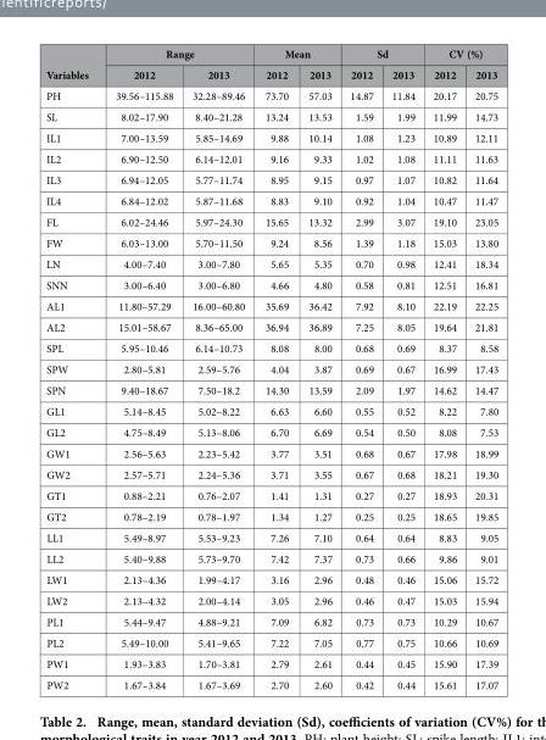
<table><thead><tr><td rowspan="2">Variables</td><td colspan="2">Range</td><td colspan="2">Mean</td><td colspan="2">Sd</td><td colspan="2">CV (%)</td></tr><tr><td>2012</td><td>2013</td><td>2012</td><td>2013</td><td>2012</td><td>2013</td><td>2012</td><td>2013</td></tr></thead><tbody><tr><td>PH</td><td>39.56–115.88</td><td>32.28–89.46</td><td>73.70</td><td>57.03</td><td>14.87</td><td>11.84</td><td>20.17</td><td>20.75</td></tr><tr><td>SL</td><td>8.02–17.90</td><td>8.40–21.28</td><td>13.24</td><td>13.53</td><td>1.59</td><td>1.99</td><td>11.99</td><td>14.73</td></tr><tr><td>IL1</td><td>7.00–13.59</td><td>5.85–14.69</td><td>9.88</td><td>10.14</td><td>1.08</td><td>1.23</td><td>10.89</td><td>12.11</td></tr><tr><td>IL2</td><td>6.90–12.50</td><td>6.14–12.01</td><td>9.16</td><td>9.33</td><td>1.02</td><td>1.08</td><td>11.11</td><td>11.63</td></tr><tr><td>IL3</td><td>6.94–12.05</td><td>5.77–11.74</td><td>8.95</td><td>9.15</td><td>0.97</td><td>1.07</td><td>10.82</td><td>11.64</td></tr><tr><td>IL4</td><td>6.84–12.02</td><td>5.87–11.68</td><td>8.83</td><td>9.10</td><td>0.92</td><td>1.04</td><td>10.47</td><td>11.47</td></tr><tr><td>FL</td><td>6.02–24.46</td><td>5.97–24.30</td><td>15.65</td><td>13.32</td><td>2.99</td><td>3.07</td><td>19.10</td><td>23.05</td></tr><tr><td>FW</td><td>6.03–13.00</td><td>5.70–11.50</td><td>9.24</td><td>8.56</td><td>1.39</td><td>1.18</td><td>15.03</td><td>13.80</td></tr><tr><td>LN</td><td>4.00–7.40</td><td>3.00–7.80</td><td>5.65</td><td>5.35</td><td>0.70</td><td>0.98</td><td>12.41</td><td>18.34</td></tr><tr><td>SNN</td><td>3.00–6.40</td><td>3.00–6.80</td><td>4.66</td><td>4.80</td><td>0.58</td><td>0.81</td><td>12.51</td><td>16.81</td></tr><tr><td>AL1</td><td>11.80–57.29</td><td>16.00–60.80</td><td>35.69</td><td>36.42</td><td>7.92</td><td>8.10</td><td>22.19</td><td>22.25</td></tr><tr><td>AL2</td><td>15.01–58.67</td><td>8.36–65.00</td><td>36.94</td><td>36.89</td><td>7.25</td><td>8.05</td><td>19.64</td><td>21.81</td></tr><tr><td>SPL</td><td>5.95–10.46</td><td>6.14–10.73</td><td>8.08</td><td>8.00</td><td>0.68</td><td>0.69</td><td>8.37</td><td>8.58</td></tr><tr><td>SPW</td><td>2.80–5.81</td><td>2.59–5.76</td><td>4.04</td><td>3.87</td><td>0.69</td><td>0.67</td><td>16.99</td><td>17.43</td></tr><tr><td>SPN</td><td>9.40–18.67</td><td>7.50–18.2</td><td>14.30</td><td>13.59</td><td>2.09</td><td>1.97</td><td>14.62</td><td>14.47</td></tr><tr><td>GL1</td><td>5.14–8.45</td><td>5.02–8.22</td><td>6.63</td><td>6.60</td><td>0.55</td><td>0.52</td><td>8.22</td><td>7.80</td></tr><tr><td>GL2</td><td>4.75–8.49</td><td>5.13–8.06</td><td>6.70</td><td>6.69</td><td>0.54</td><td>0.50</td><td>8.08</td><td>7.53</td></tr><tr><td>GW1</td><td>2.56–5.63</td><td>2.23–5.42</td><td>3.77</td><td>3.51</td><td>0.68</td><td>0.67</td><td>17.98</td><td>18.99</td></tr><tr><td>GW2</td><td>2.57–5.71</td><td>2.24–5.36</td><td>3.71</td><td>3.55</td><td>0.67</td><td>0.68</td><td>18.21</td><td>19.30</td></tr><tr><td>GT1</td><td>0.88–2.21</td><td>0.76–2.07</td><td>1.41</td><td>1.31</td><td>0.27</td><td>0.27</td><td>18.93</td><td>20.31</td></tr><tr><td>GT2</td><td>0.78–2.19</td><td>0.78–1.97</td><td>1.34</td><td>1.27</td><td>0.25</td><td>0.25</td><td>18.65</td><td>19.85</td></tr><tr><td>LL1</td><td>5.49–8.97</td><td>5.53–9.23</td><td>7.26</td><td>7.10</td><td>0.64</td><td>0.64</td><td>8.83</td><td>9.05</td></tr><tr><td>LL2</td><td>5.40–9.88</td><td>5.73–9.70</td><td>7.42</td><td>7.37</td><td>0.73</td><td>0.66</td><td>9.86</td><td>9.01</td></tr><tr><td>LW1</td><td>2.13–4.36</td><td>1.99–4.17</td><td>3.16</td><td>2.96</td><td>0.48</td><td>0.46</td><td>15.06</td><td>15.72</td></tr><tr><td>LW2</td><td>2.13–4.32</td><td>2.00–4.14</td><td>3.05</td><td>2.96</td><td>0.46</td><td>0.47</td><td>15.03</td><td>15.94</td></tr><tr><td>PL1</td><td>5.44–9.47</td><td>4.88–9.21</td><td>7.09</td><td>6.82</td><td>0.73</td><td>0.73</td><td>10.29</td><td>10.67</td></tr><tr><td>PL2</td><td>5.49–10.00</td><td>5.41–9.65</td><td>7.22</td><td>7.05</td><td>0.77</td><td>0.75</td><td>10.66</td><td>10.69</td></tr><tr><td>PW1</td><td>1.93–3.83</td><td>1.70–3.81</td><td>2.79</td><td>2.61</td><td>0.44</td><td>0.45</td><td>15.90</td><td>17.39</td></tr><tr><td>PW2</td><td>1.67–3.84</td><td>1.67–3.69</td><td>2.70</td><td>2.60</td><td>0.42</td><td>0.44</td><td>15.61</td><td>17.07</td></tr></tbody></table>